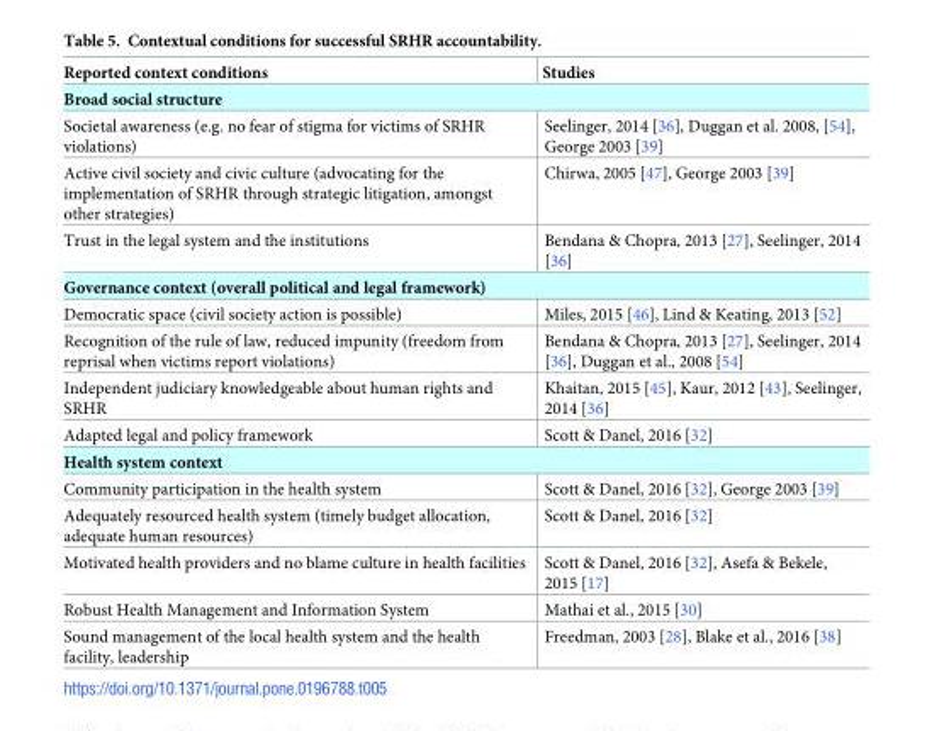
<table><thead><tr><td>Reported context conditions</td><td>Studies</td></tr></thead><tbody><tr><td colspan="2">Broad social structure</td></tr><tr><td>Societal awareness (e.g. no fear of stigma for victims of SRHR violations)</td><td>Seelinger, 2014 [36], Duggan et al. 2008, [54], George 2003 [39]</td></tr><tr><td>Active civil society and civic culture (advocating for the implementation of SRHR through strategic litigation, amongst other strategies)</td><td>Chirwa, 2005 [47], George 2003 [39]</td></tr><tr><td>Trust in the legal system and the institutions</td><td>Bendana &amp; Chopra, 2013 [27], Seelinger, 2014 [36]</td></tr><tr><td colspan="2">Governance context (overall political and legal framework)</td></tr><tr><td>Democratic space (civil society action is possible)</td><td>Miles, 2015 [46], Lind &amp; Keating, 2013 [52]</td></tr><tr><td>Recognition of the rule of law, reduced impunity (freedom from reprisal when victims report violations)</td><td>Bendana &amp; Chopra, 2013 [27], Seelinger, 2014 [36], Duggan et al., 2008 [54]</td></tr><tr><td>Independent judiciary knowledgeable about human rights and SRHR</td><td>Khaitan, 2015 [45], Kaur, 2012 [43], Seelinger, 2014 [36]</td></tr><tr><td>Adapted legal and policy framework</td><td>Scott &amp; Danel, 2016 [32]</td></tr><tr><td colspan="2">Health system context</td></tr><tr><td>Community participation in the health system</td><td>Scott &amp; Danel, 2016 [32], George 2003 [39]</td></tr><tr><td>Adequately resourced health system (timely budget allocation, adequate human resources)</td><td>Scott &amp; Danel, 2016 [32]</td></tr><tr><td>Motivated health providers and no blame culture in health facilities</td><td>Scott &amp; Danel, 2016 [32], Asefa &amp; Bekele, 2015 [17]</td></tr><tr><td>Robust Health Management and Information System</td><td>Mathai et al., 2015 [30]</td></tr><tr><td>Sound management of the local health system and the health facility, leadership</td><td>Freedman, 2003 [28], Blake et al., 2016 [38]</td></tr></tbody></table>